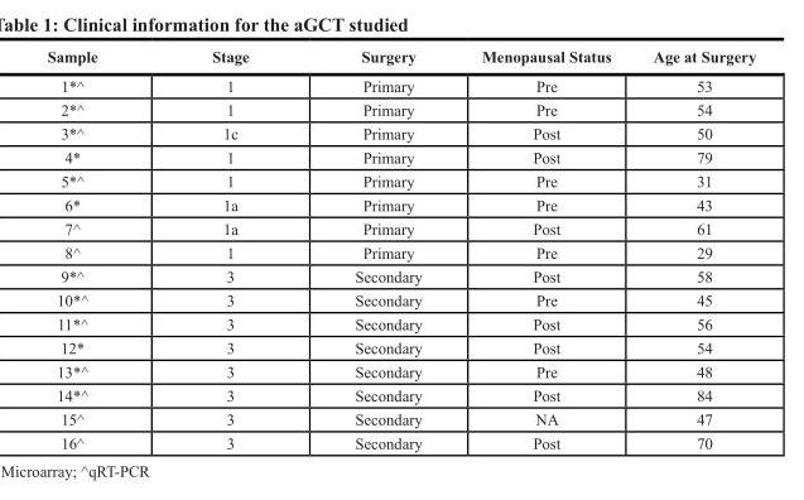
<table><thead><tr><td>Sample</td><td>Stage</td><td>Surgery</td><td>Menopausal Status</td><td>Age at Surgery</td></tr></thead><tbody><tr><td>1*^</td><td>1</td><td>Primary</td><td>Pre</td><td>53</td></tr><tr><td>2*^</td><td>1</td><td>Primary</td><td>Pre</td><td>54</td></tr><tr><td>3*^</td><td>1c</td><td>Primary</td><td>Post</td><td>50</td></tr><tr><td>4*</td><td>1</td><td>Primary</td><td>Post</td><td>79</td></tr><tr><td>5*^</td><td>1</td><td>Primary</td><td>Pre</td><td>31</td></tr><tr><td>6*</td><td>1a</td><td>Primary</td><td>Pre</td><td>43</td></tr><tr><td>7^</td><td>1a</td><td>Primary</td><td>Post</td><td>61</td></tr><tr><td>8^</td><td>1</td><td>Primary</td><td>Pre</td><td>29</td></tr><tr><td>9*^</td><td>3</td><td>Secondary</td><td>Post</td><td>58</td></tr><tr><td>10*^</td><td>3</td><td>Secondary</td><td>Pre</td><td>45</td></tr><tr><td>11*^</td><td>3</td><td>Secondary</td><td>Post</td><td>56</td></tr><tr><td>12*</td><td>3</td><td>Secondary</td><td>Post</td><td>54</td></tr><tr><td>13*^</td><td>3</td><td>Secondary</td><td>Pre</td><td>48</td></tr><tr><td>14*^</td><td>3</td><td>Secondary</td><td>Post</td><td>84</td></tr><tr><td>15^</td><td>3</td><td>Secondary</td><td>NA</td><td>47</td></tr><tr><td>16^</td><td>3</td><td>Secondary</td><td>Post</td><td>70</td></tr></tbody></table>